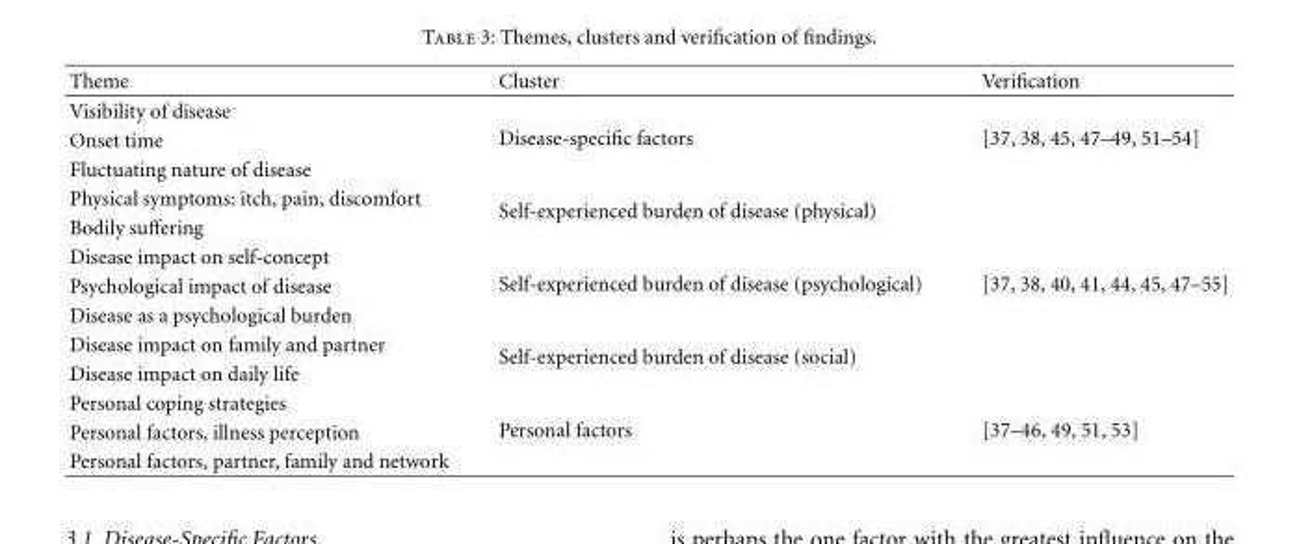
<table><thead><tr><td>Theme</td><td>Cluster</td><td>Verification</td></tr></thead><tbody><tr><td>Visibility of disease</td><td rowspan="3">Disease-specific factors</td><td rowspan="3">[37, 38, 45, 47–49, 51–54]</td></tr><tr><td>Onset time</td></tr><tr><td>Fluctuating nature of disease</td></tr><tr><td>Physical symptoms: itch, pain, discomfort</td><td rowspan="2">Self-experienced burden of disease (physical)</td><td rowspan="7">[37, 38, 40, 41, 44, 45, 47–55]</td></tr><tr><td>Bodily suffering</td></tr><tr><td>Disease impact on self-concept</td><td rowspan="3">Self-experienced burden of disease (psychological)</td></tr><tr><td>Psychological impact of disease</td></tr><tr><td>Disease as a psychological burden</td></tr><tr><td>Disease impact on family and partner</td><td rowspan="2">Self-experienced burden of disease (social)</td></tr><tr><td>Disease impact on daily life</td></tr><tr><td>Personal coping strategies</td><td rowspan="3">Personal factors</td><td rowspan="3">[37–46, 49, 51, 53]</td></tr><tr><td>Personal factors, illness perception</td></tr><tr><td>Personal factors, partner, family and network</td></tr></tbody></table>